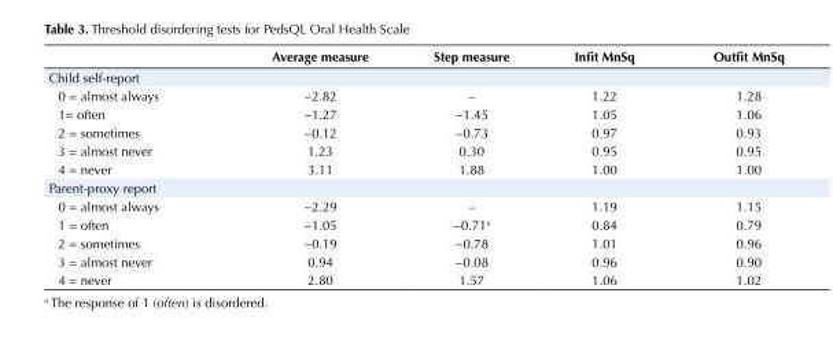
<table><thead><tr><td></td><td>Average measure</td><td>Step measure</td><td>Infit MnSq</td><td>Outfit MnSq</td></tr></thead><tbody><tr><td colspan="5">Child self-report</td></tr><tr><td>0 = almost always</td><td>−2.82</td><td>–</td><td>1.22</td><td>1.28</td></tr><tr><td>1= often</td><td>−1.27</td><td>−1.45</td><td>1.05</td><td>1.06</td></tr><tr><td>2 = sometimes</td><td>−0.12</td><td>−0.73</td><td>0.97</td><td>0.93</td></tr><tr><td>3 = almost never</td><td>1.23</td><td>0.30</td><td>0.95</td><td>0.95</td></tr><tr><td>4 = never</td><td>3.11</td><td>1.88</td><td>1.00</td><td>1.00</td></tr><tr><td colspan="5">Parent-proxy report</td></tr><tr><td>0 = almost always</td><td>−2.29</td><td>–</td><td>1.19</td><td>1.15</td></tr><tr><td>1 = often</td><td>−1.05</td><td>−0.71<sup>a</sup></td><td>0.84</td><td>0.79</td></tr><tr><td>2 = sometimes</td><td>−0.19</td><td>−0.78</td><td>1.01</td><td>0.96</td></tr><tr><td>3 = almost never</td><td>0.94</td><td>−0.08</td><td>0.96</td><td>0.90</td></tr><tr><td>4 = never</td><td>2.80</td><td>1.57</td><td>1.06</td><td>1.02</td></tr></tbody></table>